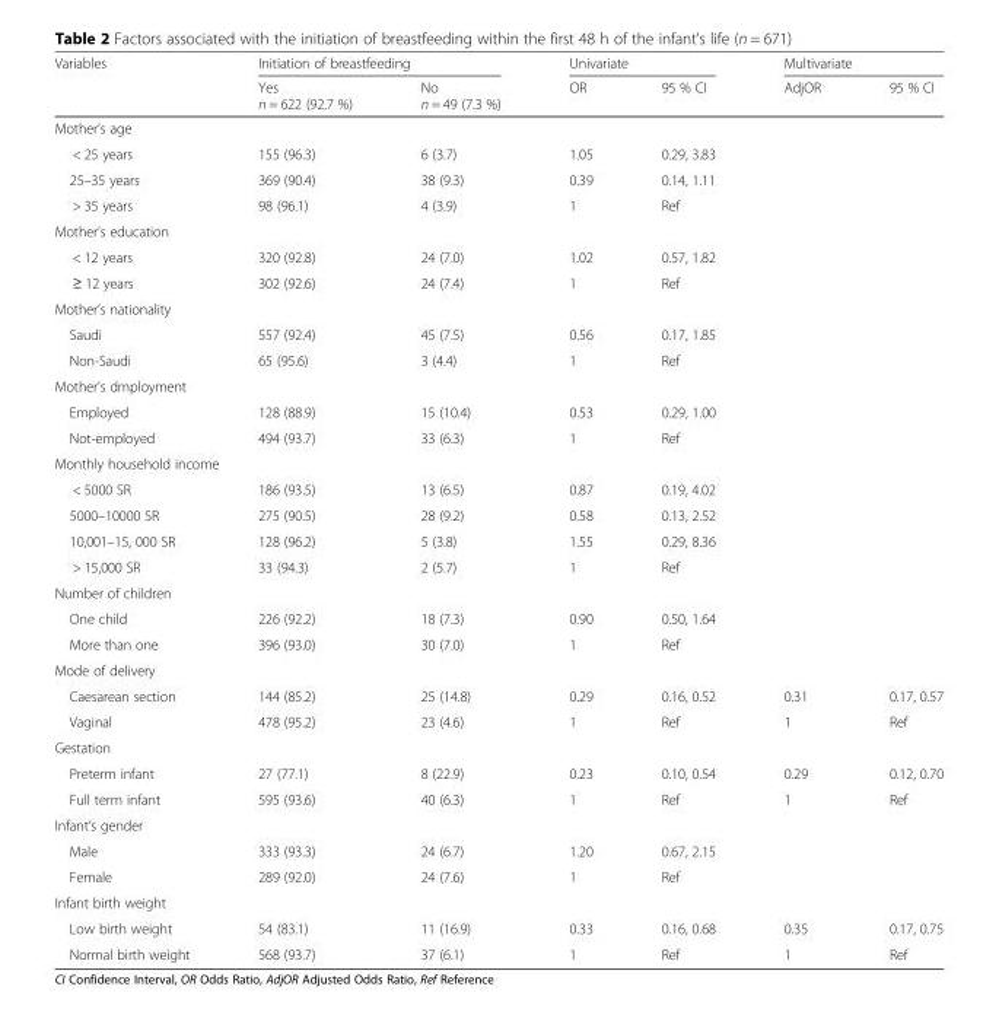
<table><thead><tr><td rowspan="2">Variables</td><td colspan="2">Initiation of breastfeeding</td><td colspan="2">Univariate</td><td colspan="2">Multivariate</td></tr><tr><td>Yes n = 622 (92.7 %)</td><td>No n = 49 (7.3 %)</td><td>OR</td><td>95 % CI</td><td>AdjOR</td><td>95 % CI</td></tr></thead><tbody><tr><td colspan="7">Mother’s age</td></tr><tr><td>&lt; 25 years</td><td>155 (96.3)</td><td>6 (3.7)</td><td>1.05</td><td>0.29, 3.83</td><td></td><td></td></tr><tr><td>25–35 years</td><td>369 (90.4)</td><td>38 (9.3)</td><td>0.39</td><td>0.14, 1.11</td><td></td><td></td></tr><tr><td>&gt; 35 years</td><td>98 (96.1)</td><td>4 (3.9)</td><td>1</td><td>Ref</td><td></td><td></td></tr><tr><td colspan="7">Mother’s education</td></tr><tr><td>&lt; 12 years</td><td>320 (92.8)</td><td>24 (7.0)</td><td>1.02</td><td>0.57, 1.82</td><td></td><td></td></tr><tr><td>≥ 12 years</td><td>302 (92.6)</td><td>24 (7.4)</td><td>1</td><td>Ref</td><td></td><td></td></tr><tr><td colspan="7">Mother’s nationality</td></tr><tr><td>Saudi</td><td>557 (92.4)</td><td>45 (7.5)</td><td>0.56</td><td>0.17, 1.85</td><td></td><td></td></tr><tr><td>Non-Saudi</td><td>65 (95.6)</td><td>3 (4.4)</td><td>1</td><td>Ref</td><td></td><td></td></tr><tr><td colspan="7">Mother’s dmployment</td></tr><tr><td>Employed</td><td>128 (88.9)</td><td>15 (10.4)</td><td>0.53</td><td>0.29, 1.00</td><td></td><td></td></tr><tr><td>Not-employed</td><td>494 (93.7)</td><td>33 (6.3)</td><td>1</td><td>Ref</td><td></td><td></td></tr><tr><td colspan="7">Monthly household income</td></tr><tr><td>&lt; 5000 SR</td><td>186 (93.5)</td><td>13 (6.5)</td><td>0.87</td><td>0.19, 4.02</td><td></td><td></td></tr><tr><td>5000–10000 SR</td><td>275 (90.5)</td><td>28 (9.2)</td><td>0.58</td><td>0.13, 2.52</td><td></td><td></td></tr><tr><td>10,001–15, 000 SR</td><td>128 (96.2)</td><td>5 (3.8)</td><td>1.55</td><td>0.29, 8.36</td><td></td><td></td></tr><tr><td>&gt; 15,000 SR</td><td>33 (94.3)</td><td>2 (5.7)</td><td>1</td><td>Ref</td><td></td><td></td></tr><tr><td colspan="7">Number of children</td></tr><tr><td>One child</td><td>226 (92.2)</td><td>18 (7.3)</td><td>0.90</td><td>0.50, 1.64</td><td></td><td></td></tr><tr><td>More than one</td><td>396 (93.0)</td><td>30 (7.0)</td><td>1</td><td>Ref</td><td></td><td></td></tr><tr><td colspan="7">Mode of delivery</td></tr><tr><td>Caesarean section</td><td>144 (85.2)</td><td>25 (14.8)</td><td>0.29</td><td>0.16, 0.52</td><td>0.31</td><td>0.17, 0.57</td></tr><tr><td>Vaginal</td><td>478 (95.2)</td><td>23 (4.6)</td><td>1</td><td>Ref</td><td>1</td><td>Ref</td></tr><tr><td colspan="7">Gestation</td></tr><tr><td>Preterm infant</td><td>27 (77.1)</td><td>8 (22.9)</td><td>0.23</td><td>0.10, 0.54</td><td>0.29</td><td>0.12, 0.70</td></tr><tr><td>Full term infant</td><td>595 (93.6)</td><td>40 (6.3)</td><td>1</td><td>Ref</td><td>1</td><td>Ref</td></tr><tr><td colspan="7">Infant’s gender</td></tr><tr><td>Male</td><td>333 (93.3)</td><td>24 (6.7)</td><td>1.20</td><td>0.67, 2.15</td><td></td><td></td></tr><tr><td>Female</td><td>289 (92.0)</td><td>24 (7.6)</td><td>1</td><td>Ref</td><td></td><td></td></tr><tr><td colspan="7">Infant birth weight</td></tr><tr><td>Low birth weight</td><td>54 (83.1)</td><td>11 (16.9)</td><td>0.33</td><td>0.16, 0.68</td><td>0.35</td><td>0.17, 0.75</td></tr><tr><td>Normal birth weight</td><td>568 (93.7)</td><td>37 (6.1)</td><td>1</td><td>Ref</td><td>1</td><td>Ref</td></tr></tbody></table>